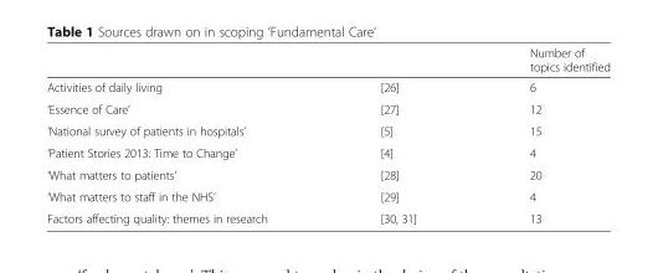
<table><thead><tr><td></td><td></td><td>Number of topics identified</td></tr></thead><tbody><tr><td>Activities of daily living</td><td>[26]</td><td>6</td></tr><tr><td>‘Essence of Care’</td><td>[27]</td><td>12</td></tr><tr><td>‘National survey of patients in hospitals’</td><td>[5]</td><td>15</td></tr><tr><td>‘Patient Stories 2013: Time to Change’</td><td>[4]</td><td>4</td></tr><tr><td>‘What matters to patients’</td><td>[28]</td><td>20</td></tr><tr><td>‘What matters to staff in the NHS’</td><td>[29]</td><td>4</td></tr><tr><td>Factors affecting quality: themes in research</td><td>[30, 31]</td><td>13</td></tr></tbody></table>